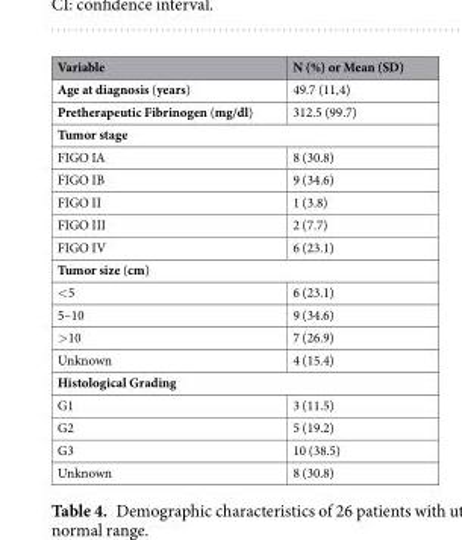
<table><thead><tr><td>Variable</td><td>N (%) or Mean (SD)</td></tr></thead><tbody><tr><td>Age at diagnosis (years)</td><td>49.7 (11,4)</td></tr><tr><td>Pretherapeutic Fibrinogen (mg/dl)</td><td>312.5 (99.7)</td></tr><tr><td colspan="2">Tumor stage</td></tr><tr><td>FIGO IA</td><td>8 (30.8)</td></tr><tr><td>FIGO IB</td><td>9 (34.6)</td></tr><tr><td>FIGO II</td><td>1 (3.8)</td></tr><tr><td>FIGO III</td><td>2 (7.7)</td></tr><tr><td>FIGO IV</td><td>6 (23.1)</td></tr><tr><td colspan="2">Tumor size (cm)</td></tr><tr><td>&lt;5</td><td>6 (23.1)</td></tr><tr><td>5–10</td><td>9 (34.6)</td></tr><tr><td>&gt;10</td><td>7 (26.9)</td></tr><tr><td>Unknown</td><td>4 (15.4)</td></tr><tr><td colspan="2">Histological Grading</td></tr><tr><td>G1</td><td>3 (11.5)</td></tr><tr><td>G2</td><td>5 (19.2)</td></tr><tr><td>G3</td><td>10 (38.5)</td></tr><tr><td>Unknown</td><td>8 (30.8)</td></tr></tbody></table>